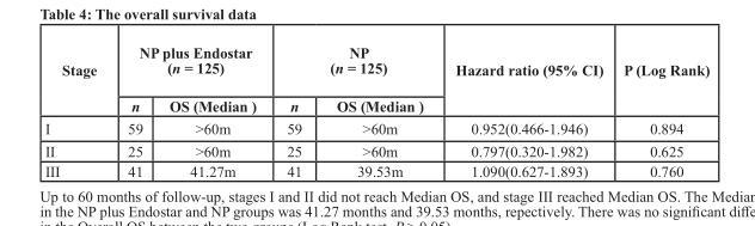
<table><thead><tr><td rowspan="2">Stage</td><td colspan="2">NP plus Endostar (n = 125)</td><td colspan="2">NP (n = 125)</td><td rowspan="2">Hazard ratio (95% CI)</td><td rowspan="2">P (Log Rank)</td></tr><tr><td>n</td><td>OS (Median )</td><td>n</td><td>OS (Median )</td></tr></thead><tbody><tr><td>I</td><td>59</td><td>&gt;60m</td><td>59</td><td>&gt;60m</td><td>0.952(0.466-1.946)</td><td>0.894</td></tr><tr><td>II</td><td>25</td><td>&gt;60m</td><td>25</td><td>&gt;60m</td><td>0.797(0.320-1.982)</td><td>0.625</td></tr><tr><td>III</td><td>41</td><td>41.27m</td><td>41</td><td>39.53m</td><td>1.090(0.627-1.893)</td><td>0.760</td></tr></tbody></table>